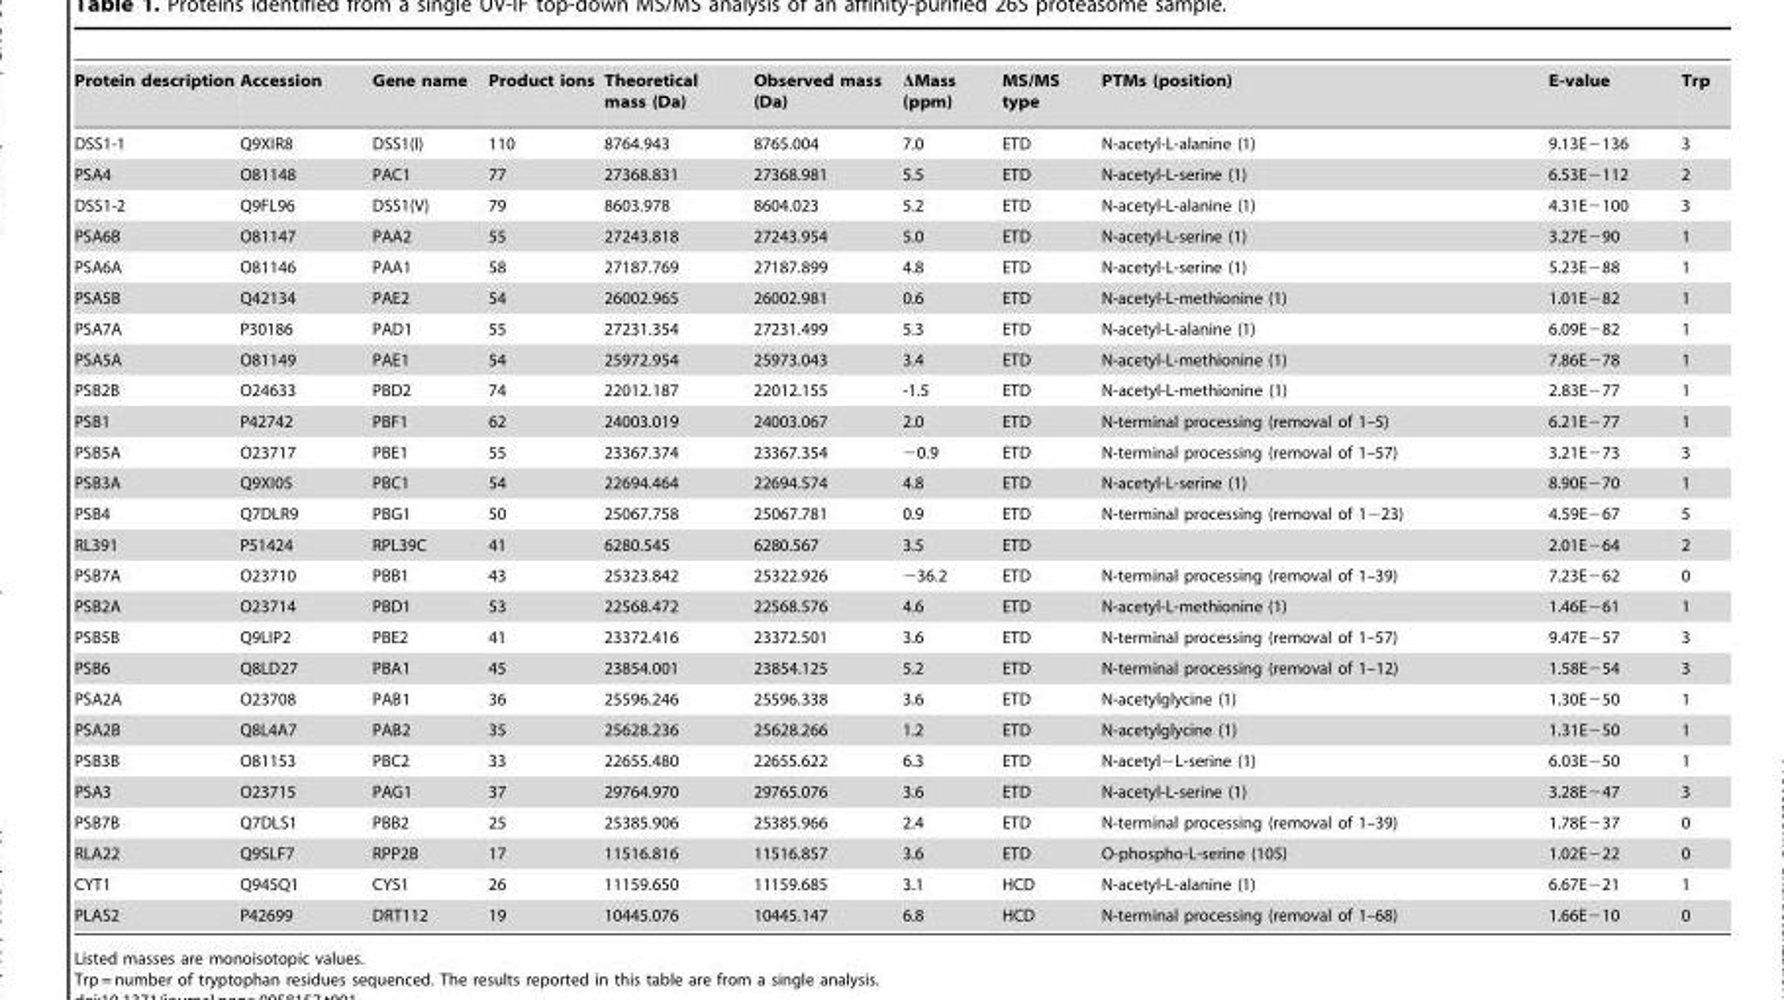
<table><tbody><tr><td>Protein description</td><td>Accession</td><td>Gene name</td><td>Product ions</td><td>Theoretical mass (Da)</td><td>Observed mass (Da)</td><td>ΔMass (ppm)</td><td>MS/MS type</td><td>PTMs (position)</td><td>E-value</td><td>Trp</td></tr><tr><td>DSS1-1</td><td>Q9XIR8</td><td>DSS1(I)</td><td>110</td><td>8764.943</td><td>8765.004</td><td>7.0</td><td>ETD</td><td>N-acetyl-L-alanine (1)</td><td>9.13E−136</td><td>3</td></tr><tr><td>PSA4</td><td>O81148</td><td>PAC1</td><td>77</td><td>27368.831</td><td>27368.981</td><td>5.5</td><td>ETD</td><td>N-acetyl-L-serine (1)</td><td>6.53E−112</td><td>2</td></tr><tr><td>DSS1-2</td><td>Q9FL96</td><td>DSS1(V)</td><td>79</td><td>8603.978</td><td>8604.023</td><td>5.2</td><td>ETD</td><td>N-acetyl-L-alanine (1)</td><td>4.31E−100</td><td>3</td></tr><tr><td>PSA6B</td><td>O81147</td><td>PAA2</td><td>55</td><td>27243.818</td><td>27243.954</td><td>5.0</td><td>ETD</td><td>N-acetyl-L-serine (1)</td><td>3.27E−90</td><td>1</td></tr><tr><td>PSA6A</td><td>O81146</td><td>PAA1</td><td>58</td><td>27187.769</td><td>27187.899</td><td>4.8</td><td>ETD</td><td>N-acetyl-L-serine (1)</td><td>5.23E−88</td><td>1</td></tr><tr><td>PSA5B</td><td>Q42134</td><td>PAE2</td><td>54</td><td>26002.965</td><td>26002.981</td><td>0.6</td><td>ETD</td><td>N-acetyl-L-methionine (1)</td><td>1.01E−82</td><td>1</td></tr><tr><td>PSA7A</td><td>P30186</td><td>PAD1</td><td>55</td><td>27231.354</td><td>27231.499</td><td>5.3</td><td>ETD</td><td>N-acetyl-L-alanine (1)</td><td>6.09E−82</td><td>1</td></tr><tr><td>PSA5A</td><td>O81149</td><td>PAE1</td><td>54</td><td>25972.954</td><td>25973.043</td><td>3.4</td><td>ETD</td><td>N-acetyl-L-methionine (1)</td><td>7.86E−78</td><td>1</td></tr><tr><td>PSB2B</td><td>O24633</td><td>PBD2</td><td>74</td><td>22012.187</td><td>22012.155</td><td>-1.5</td><td>ETD</td><td>N-acetyl-L-methionine (1)</td><td>2.83E−77</td><td>1</td></tr><tr><td>PSB1</td><td>P42742</td><td>PBF1</td><td>62</td><td>24003.019</td><td>24003.067</td><td>2.0</td><td>ETD</td><td>N-terminal processing (removal of 1–5)</td><td>6.21E−77</td><td>1</td></tr><tr><td>PSB5A</td><td>O23717</td><td>PBE1</td><td>55</td><td>23367.374</td><td>23367.354</td><td>−0.9</td><td>ETD</td><td>N-terminal processing (removal of 1–57)</td><td>3.21E−73</td><td>3</td></tr><tr><td>PSB3A</td><td>Q9XI05</td><td>PBC1</td><td>54</td><td>22694.464</td><td>22694.574</td><td>4.8</td><td>ETD</td><td>N-acetyl-L-serine (1)</td><td>8.90E−70</td><td>1</td></tr><tr><td>PSB4</td><td>Q7DLR9</td><td>PBG1</td><td>50</td><td>25067.758</td><td>25067.781</td><td>0.9</td><td>ETD</td><td>N-terminal processing (removal of 1−23)</td><td>4.59E−67</td><td>5</td></tr><tr><td>RL391</td><td>P51424</td><td>RPL39C</td><td>41</td><td>6280.545</td><td>6280.567</td><td>3.5</td><td>ETD</td><td></td><td>2.01E−64</td><td>2</td></tr><tr><td>PSB7A</td><td>O23710</td><td>PBB1</td><td>43</td><td>25323.842</td><td>25322.926</td><td>−36.2</td><td>ETD</td><td>N-terminal processing (removal of 1–39)</td><td>7.23E−62</td><td>0</td></tr><tr><td>PSB2A</td><td>O23714</td><td>PBD1</td><td>53</td><td>22568.472</td><td>22568.576</td><td>4.6</td><td>ETD</td><td>N-acetyl-L-methionine (1)</td><td>1.46E−61</td><td>1</td></tr><tr><td>PSB5B</td><td>Q9LIP2</td><td>PBE2</td><td>41</td><td>23372.416</td><td>23372.501</td><td>3.6</td><td>ETD</td><td>N-terminal processing (removal of 1–57)</td><td>9.47E−57</td><td>3</td></tr><tr><td>PSB6</td><td>Q8LD27</td><td>PBA1</td><td>45</td><td>23854.001</td><td>23854.125</td><td>5.2</td><td>ETD</td><td>N-terminal processing (removal of 1–12)</td><td>1.58E−54</td><td>3</td></tr><tr><td>PSA2A</td><td>O23708</td><td>PAB1</td><td>36</td><td>25596.246</td><td>25596.338</td><td>3.6</td><td>ETD</td><td>N-acetylglycine (1)</td><td>1.30E−50</td><td>1</td></tr><tr><td>PSA2B</td><td>Q8L4A7</td><td>PAB2</td><td>35</td><td>25628.236</td><td>25628.266</td><td>1.2</td><td>ETD</td><td>N-acetylglycine (1)</td><td>1.31E−50</td><td>1</td></tr><tr><td>PSB3B</td><td>O81153</td><td>PBC2</td><td>33</td><td>22655.480</td><td>22655.622</td><td>6.3</td><td>ETD</td><td>N-acetyl−L-serine (1)</td><td>6.03E−50</td><td>1</td></tr><tr><td>PSA3</td><td>O23715</td><td>PAG1</td><td>37</td><td>29764.970</td><td>29765.076</td><td>3.6</td><td>ETD</td><td>N-acetyl-L-serine (1)</td><td>3.28E−47</td><td>3</td></tr><tr><td>PSB7B</td><td>Q7DLS1</td><td>PBB2</td><td>25</td><td>25385.906</td><td>25385.966</td><td>2.4</td><td>ETD</td><td>N-terminal processing (removal of 1–39)</td><td>1.78E−37</td><td>0</td></tr><tr><td>RLA22</td><td>Q9SLF7</td><td>RPP2B</td><td>17</td><td>11516.816</td><td>11516.857</td><td>3.6</td><td>ETD</td><td>O-phospho-L-serine (105)</td><td>1.02E−22</td><td>0</td></tr><tr><td>CYT1</td><td>Q945Q1</td><td>CYS1</td><td>26</td><td>11159.650</td><td>11159.685</td><td>3.1</td><td>HCD</td><td>N-acetyl-L-alanine (1)</td><td>6.67E−21</td><td>1</td></tr><tr><td>PLAS2</td><td>P42699</td><td>DRT112</td><td>19</td><td>10445.076</td><td>10445.147</td><td>6.8</td><td>HCD</td><td>N-terminal processing (removal of 1–68)</td><td>1.66E−10</td><td>0</td></tr></tbody></table>